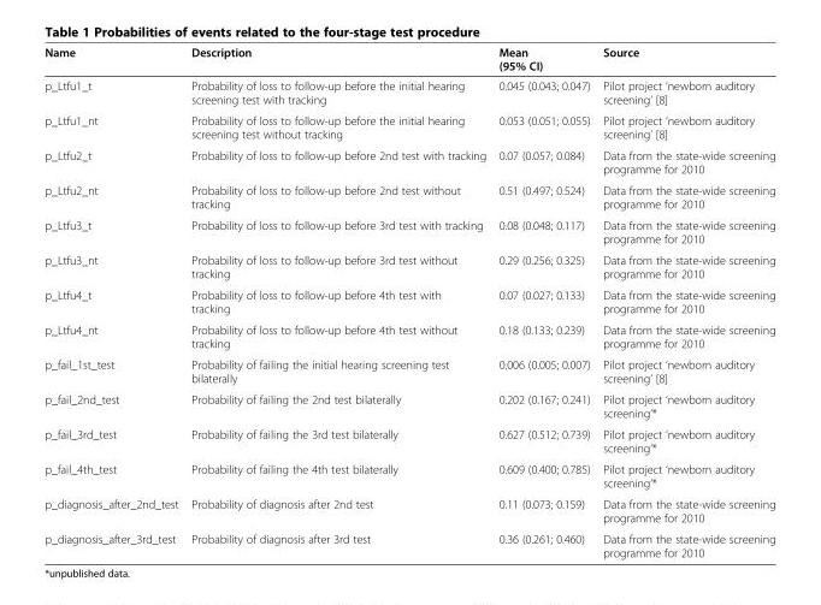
<table><thead><tr><td>Name</td><td>Description</td><td>Mean (95% CI)</td><td>Source</td></tr></thead><tbody><tr><td>p_Ltfu1_t</td><td>Probability of loss to follow-up before the initial hearing screening test with tracking</td><td>0.045 (0.043; 0.047)</td><td>Pilot project ‘newborn auditory screening’ [8]</td></tr><tr><td>p_Ltfu1_nt</td><td>Probability of loss to follow-up before the initial hearing screening test without tracking</td><td>0.053 (0.051; 0.055)</td><td>Pilot project ‘newborn auditory screening’ [8]</td></tr><tr><td>p_Ltfu2_t</td><td>Probability of loss to follow-up before 2nd test with tracking</td><td>0.07 (0.057; 0.084)</td><td>Data from the state-wide screening programme for 2010</td></tr><tr><td>p_Ltfu2_nt</td><td>Probability of loss to follow-up before 2nd test without tracking</td><td>0.51 (0.497; 0.524)</td><td>Data from the state-wide screening programme for 2010</td></tr><tr><td>p_Ltfu3_t</td><td>Probability of loss to follow-up before 3rd test with tracking</td><td>0.08 (0.048; 0.117)</td><td>Data from the state-wide screening programme for 2010</td></tr><tr><td>p_Ltfu3_nt</td><td>Probability of loss to follow-up before 3rd test without tracking</td><td>0.29 (0.256; 0.325)</td><td>Data from the state-wide screening programme for 2010</td></tr><tr><td>p_Ltfu4_t</td><td>Probability of loss to follow-up before 4th test with tracking</td><td>0.07 (0.027; 0.133)</td><td>Data from the state-wide screening programme for 2010</td></tr><tr><td>p_Ltfu4_nt</td><td>Probability of loss to follow-up before 4th test without tracking</td><td>0.18 (0.133; 0.239)</td><td>Data from the state-wide screening programme for 2010</td></tr><tr><td>p_fail_1st_test</td><td>Probability of failing the initial hearing screening test bilaterally</td><td>0.006 (0.005; 0.007)</td><td>Pilot project ‘newborn auditory screening’ [8]</td></tr><tr><td>p_fail_2nd_test</td><td>Probability of failing the 2nd test bilaterally</td><td>0.202 (0.167; 0.241)</td><td>Pilot project ‘newborn auditory screening’*</td></tr><tr><td>p_fail_3rd_test</td><td>Probability of failing the 3rd test bilaterally</td><td>0.627 (0.512; 0.739)</td><td>Pilot project ‘newborn auditory screening’*</td></tr><tr><td>p_fail_4th_test</td><td>Probability of failing the 4th test bilaterally</td><td>0.609 (0.400; 0.785)</td><td>Pilot project ‘newborn auditory screening’*</td></tr><tr><td>p_diagnosis_after_2nd_test</td><td>Probability of diagnosis after 2nd test</td><td>0.11 (0.073; 0.159)</td><td>Data from the state-wide screening programme for 2010</td></tr><tr><td>p_diagnosis_after_3rd_test</td><td>Probability of diagnosis after 3rd test</td><td>0.36 (0.261; 0.460)</td><td>Data from the state-wide screening programme for 2010</td></tr></tbody></table>